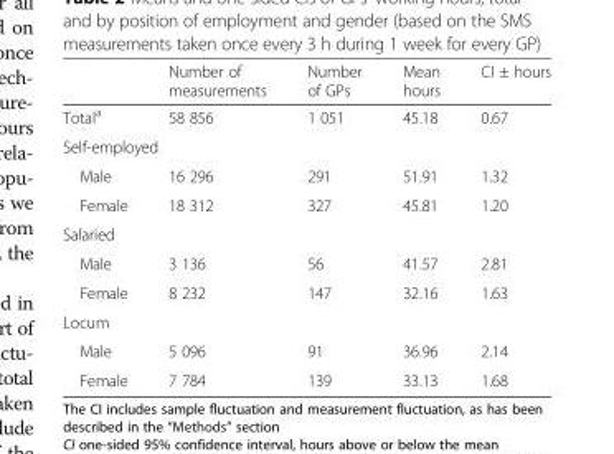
<table><thead><tr><td></td><td>Number of measurements</td><td>Number of GPs</td><td>Mean hours</td><td>CI ± hours</td></tr></thead><tbody><tr><td>Total<sup>a</sup></td><td>58 856</td><td>1 051</td><td>45.18</td><td>0.67</td></tr><tr><td colspan="5">Self-employed</td></tr><tr><td>Male</td><td>16 296</td><td>291</td><td>51.91</td><td>1.32</td></tr><tr><td>Female</td><td>18 312</td><td>327</td><td>45.81</td><td>1.20</td></tr><tr><td colspan="5">Salaried</td></tr><tr><td>Male</td><td>3 136</td><td>56</td><td>41.57</td><td>2.81</td></tr><tr><td>Female</td><td>8 232</td><td>147</td><td>32.16</td><td>1.63</td></tr><tr><td colspan="5">Locum</td></tr><tr><td>Male</td><td>5 096</td><td>91</td><td>36.96</td><td>2.14</td></tr><tr><td>Female</td><td>7 784</td><td>139</td><td>33.13</td><td>1.68</td></tr></tbody></table>